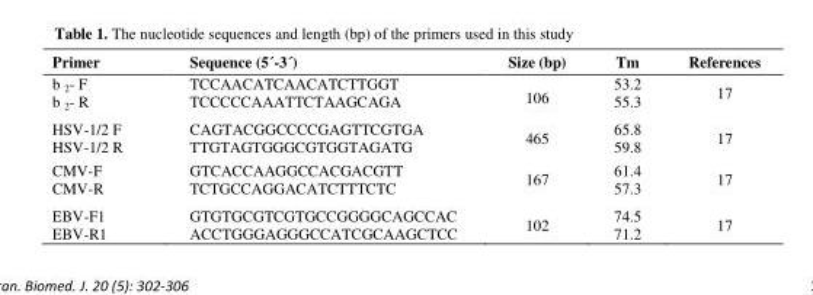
<table><thead><tr><td>Primer</td><td>Sequence (5´-3´)</td><td>Size (bp)</td><td>Tm</td><td>References</td></tr></thead><tbody><tr><td>b <sub>2</sub>- F b <sub>2</sub>- R</td><td>TCCAACATCAACATCTTGGT TCCCCCAAATTCTAAGCAGA</td><td>106</td><td>53.2 55.3</td><td>17</td></tr><tr><td>HSV-1/2 F HSV-1/2 R</td><td>CAGTACGGCCCCGAGTTCGTGA TTGTAGTGGGCGTGGTAGATG</td><td>465</td><td>65.8 59.8</td><td>17</td></tr><tr><td>CMV-F CMV-R</td><td>GTCACCAAGGCCACGACGTT TCTGCCAGGACATCTTTCTC</td><td>167</td><td>61.4 57.3</td><td>17</td></tr><tr><td>EBV-F1 EBV-R1</td><td>GTGTGCGTCGTGCCGGGGCAGCCAC ACCTGGGAGGGCCATCGCAAGCTCC</td><td>102</td><td>74.5 71.2</td><td>17</td></tr></tbody></table>